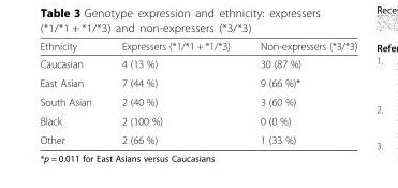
<table><thead><tr><td>Ethnicity</td><td>Expressers (*1/*1 + *1/*3)</td><td>Non-expressers (*3/*3)</td></tr></thead><tbody><tr><td>Caucasian</td><td>4 (13 %)</td><td>30 (87 %)</td></tr><tr><td>East Asian</td><td>7 (44 %)</td><td>9 (66 %)*</td></tr><tr><td>South Asian</td><td>2 (40 %)</td><td>3 (60 %)</td></tr><tr><td>Black</td><td>2 (100 %)</td><td>0 (0 %)</td></tr><tr><td>Other</td><td>2 (66 %)</td><td>1 (33 %)</td></tr></tbody></table>